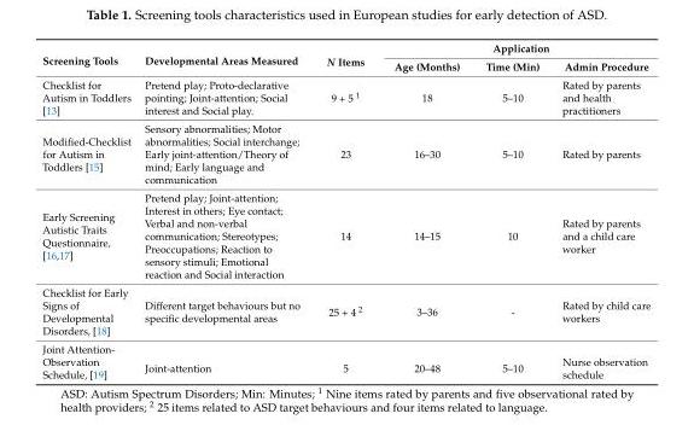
<table><thead><tr><td rowspan="2">Screening Tools</td><td rowspan="2">Developmental Areas Measured</td><td rowspan="2">N Items</td><td colspan="3">Application</td></tr><tr><td>Age (Months)</td><td>Time (Min)</td><td>Admin Procedure</td></tr></thead><tbody><tr><td>Checklist for Autism in Toddlers [13]</td><td>Pretend play; Proto-declarative pointing; Joint-attention; Social interest and Social play.</td><td>9 + 5 <sup>1</sup></td><td>18</td><td>5–10</td><td>Rated by parents and health practitioners</td></tr><tr><td>Modified-Checklist for Autism in Toddlers [15]</td><td>Sensory abnormalities; Motor abnormalities; Social interchange; Early joint-attention/Theory of mind; Early language and communication</td><td>23</td><td>16–30</td><td>5–10</td><td>Rated by parents</td></tr><tr><td>Early Screening Autistic Traits Questionnaire, [16,17]</td><td>Pretend play; Joint-attention; Interest in others; Eye contact; Verbal and non-verbal communication; Stereotypes; Preoccupations; Reaction to sensory stimuli; Emotional reaction and Social interaction</td><td>14</td><td>14–15</td><td>10</td><td>Rated by parents and a child care worker</td></tr><tr><td>Checklist for Early Signs of Developmental Disorders, [18]</td><td>Different target behaviours but no specific developmental areas</td><td>25 + 4 <sup>2</sup></td><td>3–36</td><td>-</td><td>Rated by child care workers</td></tr><tr><td>Joint Attention- Observation Schedule, [19]</td><td>Joint-attention</td><td>5</td><td>20–48</td><td>5–10</td><td>Nurse observation schedule</td></tr></tbody></table>